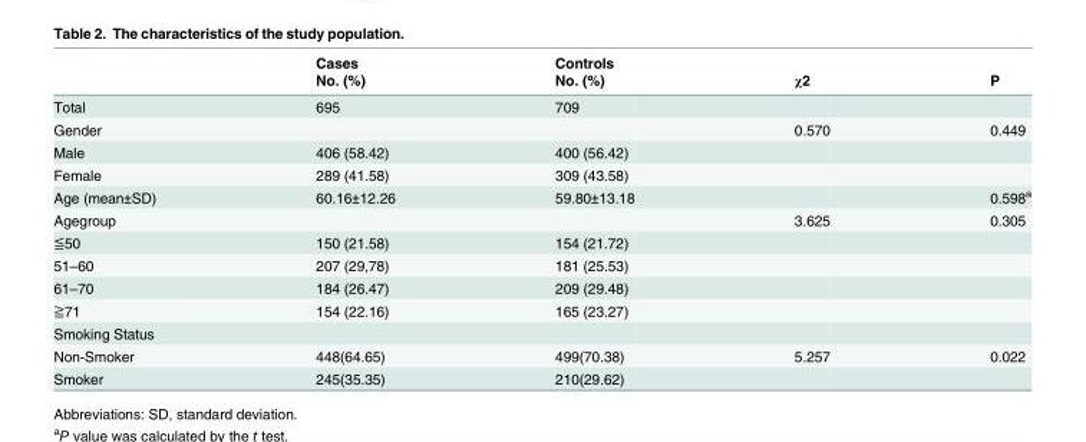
<table><thead><tr><td rowspan="2"></td><td rowspan="2">Cases No. (%)</td><td rowspan="2">Controls No. (%)</td><td rowspan="2">χ2</td><td rowspan="2">P</td></tr><tr></tr></thead><tbody><tr><td>Total</td><td>695</td><td>709</td><td></td><td></td></tr><tr><td>Gender</td><td></td><td></td><td>0.570</td><td>0.449</td></tr><tr><td>Male</td><td>406 (58.42)</td><td>400 (56.42)</td><td></td><td></td></tr><tr><td>Female</td><td>289 (41.58)</td><td>309 (43.58)</td><td></td><td></td></tr><tr><td>Age (mean±SD)</td><td>60.16±12.26</td><td>59.80±13.18</td><td></td><td>0.598<sup>a</sup></td></tr><tr><td>Agegroup</td><td></td><td></td><td>3.625</td><td>0.305</td></tr><tr><td>≦50</td><td>150 (21.58)</td><td>154 (21.72)</td><td></td><td></td></tr><tr><td>51–60</td><td>207 (29,78)</td><td>181 (25.53)</td><td></td><td></td></tr><tr><td>61–70</td><td>184 (26.47)</td><td>209 (29.48)</td><td></td><td></td></tr><tr><td>≧71</td><td>154 (22.16)</td><td>165 (23.27)</td><td></td><td></td></tr><tr><td colspan="5">Smoking Status</td></tr><tr><td>Non-Smoker</td><td>448(64.65)</td><td>499(70.38)</td><td>5.257</td><td>0.022</td></tr><tr><td>Smoker</td><td>245(35.35)</td><td>210(29.62)</td><td></td><td></td></tr></tbody></table>